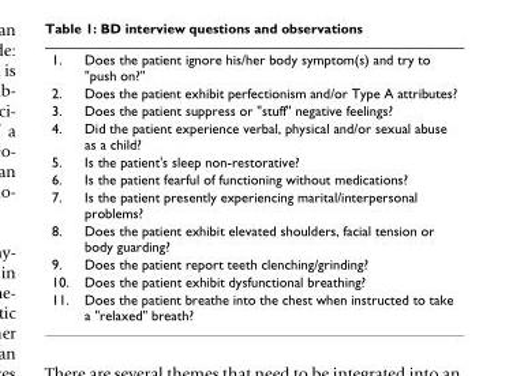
<table><tbody><tr><td>1.</td><td>Does the patient ignore his/her body symptom(s) and try to &quot;push on?&quot;</td></tr><tr><td>2.</td><td>Does the patient exhibit perfectionism and/or Type A attributes?</td></tr><tr><td>3.</td><td>Does the patient suppress or &quot;stuff&quot; negative feelings?</td></tr><tr><td>4.</td><td>Did the patient experience verbal, physical and/or sexual abuse as a child?</td></tr><tr><td>5.</td><td>Is the patient&#x27;s sleep non-restorative?</td></tr><tr><td>6.</td><td>Is the patient fearful of functioning without medications?</td></tr><tr><td>7.</td><td>Is the patient presently experiencing marital/interpersonal problems?</td></tr><tr><td>8.</td><td>Does the patient exhibit elevated shoulders, facial tension or body guarding?</td></tr><tr><td>9.</td><td>Does the patient report teeth clenching/grinding?</td></tr><tr><td>10.</td><td>Does the patient exhibit dysfunctional breathing?</td></tr><tr><td>11.</td><td>Does the patient breathe into the chest when instructed to take a &quot;relaxed&quot; breath?</td></tr></tbody></table>